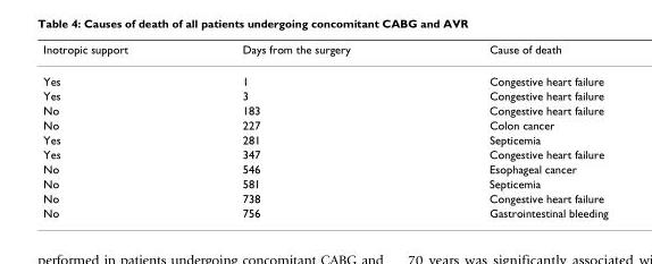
<table><thead><tr><td>Inotropic support</td><td>Days from the surgery</td><td>Cause of death</td></tr></thead><tbody><tr><td>Yes</td><td>1</td><td>Congestive heart failure</td></tr><tr><td>Yes</td><td>3</td><td>Congestive heart failure</td></tr><tr><td>No</td><td>183</td><td>Congestive heart failure</td></tr><tr><td>No</td><td>227</td><td>Colon cancer</td></tr><tr><td>Yes</td><td>281</td><td>Septicemia</td></tr><tr><td>Yes</td><td>347</td><td>Congestive heart failure</td></tr><tr><td>No</td><td>546</td><td>Esophageal cancer</td></tr><tr><td>No</td><td>581</td><td>Septicemia</td></tr><tr><td>No</td><td>738</td><td>Congestive heart failure</td></tr><tr><td>No</td><td>756</td><td>Gastrointestinal bleeding</td></tr></tbody></table>